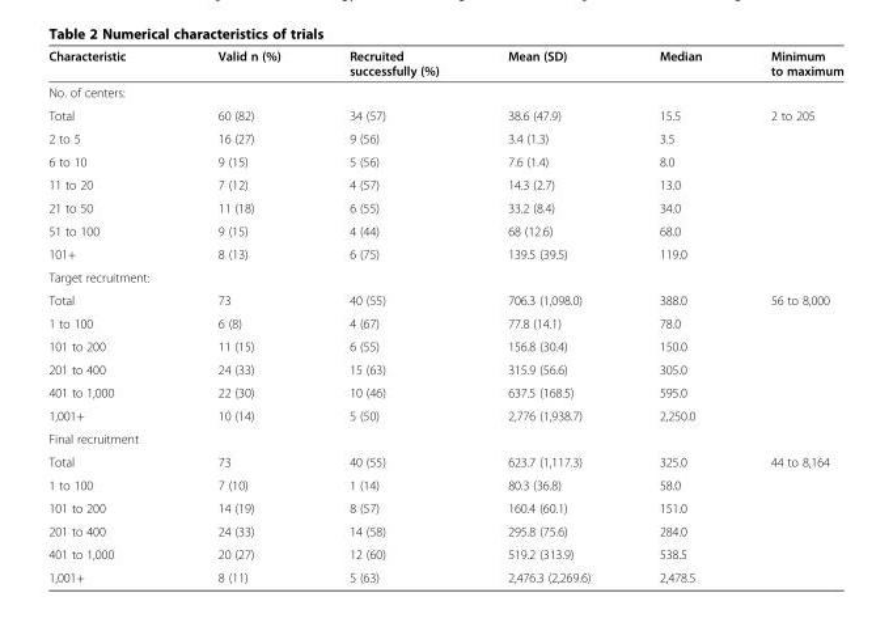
<table><thead><tr><td>Characteristic</td><td>Valid n (%)</td><td>Recruited successfully (%)</td><td>Mean (SD)</td><td>Median</td><td>Minimum to maximum</td></tr></thead><tbody><tr><td colspan="6">No. of centers:</td></tr><tr><td>Total</td><td>60 (82)</td><td>34 (57)</td><td>38.6 (47.9)</td><td>15.5</td><td>2 to 205</td></tr><tr><td>2 to 5</td><td>16 (27)</td><td>9 (56)</td><td>3.4 (1.3)</td><td>3.5</td><td></td></tr><tr><td>6 to 10</td><td>9 (15)</td><td>5 (56)</td><td>7.6 (1.4)</td><td>8.0</td><td></td></tr><tr><td>11 to 20</td><td>7 (12)</td><td>4 (57)</td><td>14.3 (2.7)</td><td>13.0</td><td></td></tr><tr><td>21 to 50</td><td>11 (18)</td><td>6 (55)</td><td>33.2 (8.4)</td><td>34.0</td><td></td></tr><tr><td>51 to 100</td><td>9 (15)</td><td>4 (44)</td><td>68 (12.6)</td><td>68.0</td><td></td></tr><tr><td>101+</td><td>8 (13)</td><td>6 (75)</td><td>139.5 (39.5)</td><td>119.0</td><td></td></tr><tr><td colspan="6">Target recruitment:</td></tr><tr><td>Total</td><td>73</td><td>40 (55)</td><td>706.3 (1,098.0)</td><td>388.0</td><td>56 to 8,000</td></tr><tr><td>1 to 100</td><td>6 (8)</td><td>4 (67)</td><td>77.8 (14.1)</td><td>78.0</td><td></td></tr><tr><td>101 to 200</td><td>11 (15)</td><td>6 (55)</td><td>156.8 (30.4)</td><td>150.0</td><td></td></tr><tr><td>201 to 400</td><td>24 (33)</td><td>15 (63)</td><td>315.9 (56.6)</td><td>305.0</td><td></td></tr><tr><td>401 to 1,000</td><td>22 (30)</td><td>10 (46)</td><td>637.5 (168.5)</td><td>595.0</td><td></td></tr><tr><td>1,001+</td><td>10 (14)</td><td>5 (50)</td><td>2,776 (1,938.7)</td><td>2,250.0</td><td></td></tr><tr><td colspan="6">Final recruitment</td></tr><tr><td>Total</td><td>73</td><td>40 (55)</td><td>623.7 (1,117.3)</td><td>325.0</td><td>44 to 8,164</td></tr><tr><td>1 to 100</td><td>7 (10)</td><td>1 (14)</td><td>80.3 (36.8)</td><td>58.0</td><td></td></tr><tr><td>101 to 200</td><td>14 (19)</td><td>8 (57)</td><td>160.4 (60.1)</td><td>151.0</td><td></td></tr><tr><td>201 to 400</td><td>24 (33)</td><td>14 (58)</td><td>295.8 (75.6)</td><td>284.0</td><td></td></tr><tr><td>401 to 1,000</td><td>20 (27)</td><td>12 (60)</td><td>519.2 (313.9)</td><td>538.5</td><td></td></tr><tr><td>1,001+</td><td>8 (11)</td><td>5 (63)</td><td>2,476.3 (2,269.6)</td><td>2,478.5</td><td></td></tr></tbody></table>